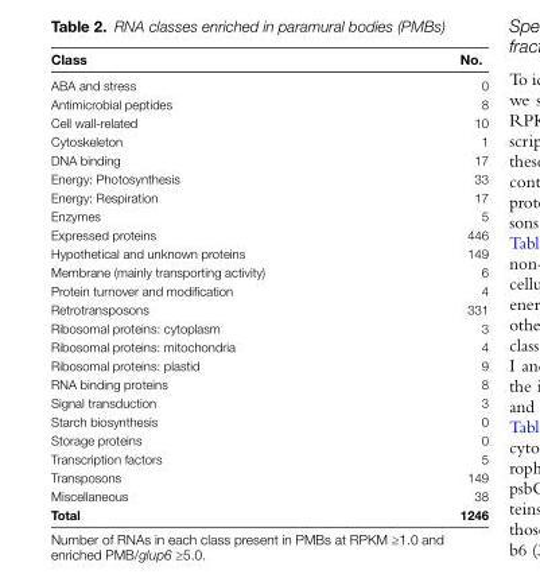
<table><thead><tr><td>Class</td><td>No.</td></tr></thead><tbody><tr><td>ABA and stress</td><td>0</td></tr><tr><td>Antimicrobial peptides</td><td>8</td></tr><tr><td>Cell wall-related</td><td>10</td></tr><tr><td>Cytoskeleton</td><td>1</td></tr><tr><td>DNA binding</td><td>17</td></tr><tr><td>Energy: Photosynthesis</td><td>33</td></tr><tr><td>Energy: Respiration</td><td>17</td></tr><tr><td>Enzymes</td><td>5</td></tr><tr><td>Expressed proteins</td><td>446</td></tr><tr><td>Hypothetical and unknown proteins</td><td>149</td></tr><tr><td>Membrane (mainly transporting activity)</td><td>6</td></tr><tr><td>Protein turnover and modification</td><td>4</td></tr><tr><td>Retrotransposons</td><td>331</td></tr><tr><td>Ribosomal proteins: cytoplasm</td><td>3</td></tr><tr><td>Ribosomal proteins: mitochondria</td><td>4</td></tr><tr><td>Ribosomal proteins: plastid</td><td>9</td></tr><tr><td>RNA binding proteins</td><td>8</td></tr><tr><td>Signal transduction</td><td>3</td></tr><tr><td>Starch biosynthesis</td><td>0</td></tr><tr><td>Storage proteins</td><td>0</td></tr><tr><td>Transcription factors</td><td>5</td></tr><tr><td>Transposons</td><td>149</td></tr><tr><td>Miscellaneous</td><td>38</td></tr><tr><td>Total</td><td>1246</td></tr></tbody></table>